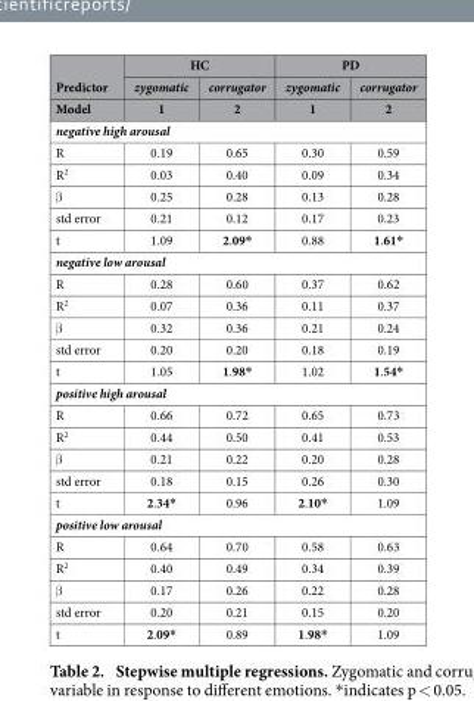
<table><thead><tr><td rowspan="3">Predictor Model</td><td colspan="2">HC</td><td colspan="2">PD</td></tr><tr><td rowspan="2">zygomatic 1</td><td rowspan="2">corrugator 2</td><td rowspan="2">zygomatic 1</td><td rowspan="2">corrugator 2</td></tr><tr></tr></thead><tbody><tr><td colspan="5">negative high arousal</td></tr><tr><td>R</td><td>0.19</td><td>0.65</td><td>0.30</td><td>0.59</td></tr><tr><td>R<sup>2</sup></td><td>0.03</td><td>0.40</td><td>0.09</td><td>0.34</td></tr><tr><td>β</td><td>0.25</td><td>0.28</td><td>0.13</td><td>0.28</td></tr><tr><td>std error</td><td>0.21</td><td>0.12</td><td>0.17</td><td>0.23</td></tr><tr><td>t</td><td>1.09</td><td>2.09*</td><td>0.88</td><td>1.61*</td></tr><tr><td colspan="5">negative low arousal</td></tr><tr><td>R</td><td>0.28</td><td>0.60</td><td>0.37</td><td>0.62</td></tr><tr><td>R<sup>2</sup></td><td>0.07</td><td>0.36</td><td>0.11</td><td>0.37</td></tr><tr><td>β</td><td>0.32</td><td>0.36</td><td>0.21</td><td>0.24</td></tr><tr><td>std error</td><td>0.20</td><td>0.20</td><td>0.18</td><td>0.19</td></tr><tr><td>t</td><td>1.05</td><td>1.98*</td><td>1.02</td><td>1.54*</td></tr><tr><td colspan="5">positive high arousal</td></tr><tr><td>R</td><td>0.66</td><td>0.72</td><td>0.65</td><td>0.73</td></tr><tr><td>R<sup>2</sup></td><td>0.44</td><td>0.50</td><td>0.41</td><td>0.53</td></tr><tr><td>β</td><td>0.21</td><td>0.22</td><td>0.20</td><td>0.28</td></tr><tr><td>std error</td><td>0.18</td><td>0.15</td><td>0.26</td><td>0.30</td></tr><tr><td>t</td><td>2.34*</td><td>0.96</td><td>2.10*</td><td>1.09</td></tr><tr><td colspan="5">positive low arousal</td></tr><tr><td>R</td><td>0.64</td><td>0.70</td><td>0.58</td><td>0.63</td></tr><tr><td>R<sup>2</sup></td><td>0.40</td><td>0.49</td><td>0.34</td><td>0.39</td></tr><tr><td>β</td><td>0.17</td><td>0.26</td><td>0.22</td><td>0.28</td></tr><tr><td>std error</td><td>0.20</td><td>0.21</td><td>0.15</td><td>0.20</td></tr><tr><td>t</td><td>2.09*</td><td>0.89</td><td>1.98*</td><td>1.09</td></tr></tbody></table>